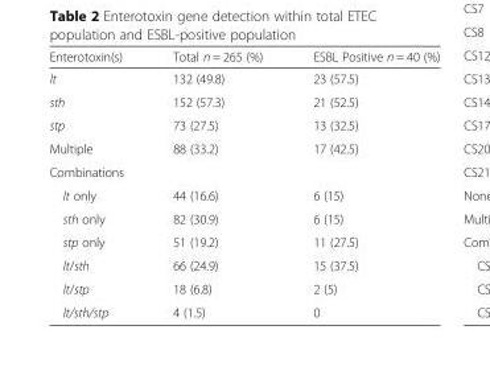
<table><thead><tr><td>Enterotoxin(s)</td><td>Total n = 265 (%)</td><td>ESBL Positive n = 40 (%)</td></tr></thead><tbody><tr><td>lt</td><td>132 (49.8)</td><td>23 (57.5)</td></tr><tr><td>sth</td><td>152 (57.3)</td><td>21 (52.5)</td></tr><tr><td>stp</td><td>73 (27.5)</td><td>13 (32.5)</td></tr><tr><td>Multiple</td><td>88 (33.2)</td><td>17 (42.5)</td></tr><tr><td colspan="3">Combinations</td></tr><tr><td>lt only</td><td>44 (16.6)</td><td>6 (15)</td></tr><tr><td>sth only</td><td>82 (30.9)</td><td>6 (15)</td></tr><tr><td>stp only</td><td>51 (19.2)</td><td>11 (27.5)</td></tr><tr><td>lt/sth</td><td>66 (24.9)</td><td>15 (37.5)</td></tr><tr><td>lt/stp</td><td>18 (6.8)</td><td>2 (5)</td></tr><tr><td>lt/sth/stp</td><td>4 (1.5)</td><td>0</td></tr></tbody></table>